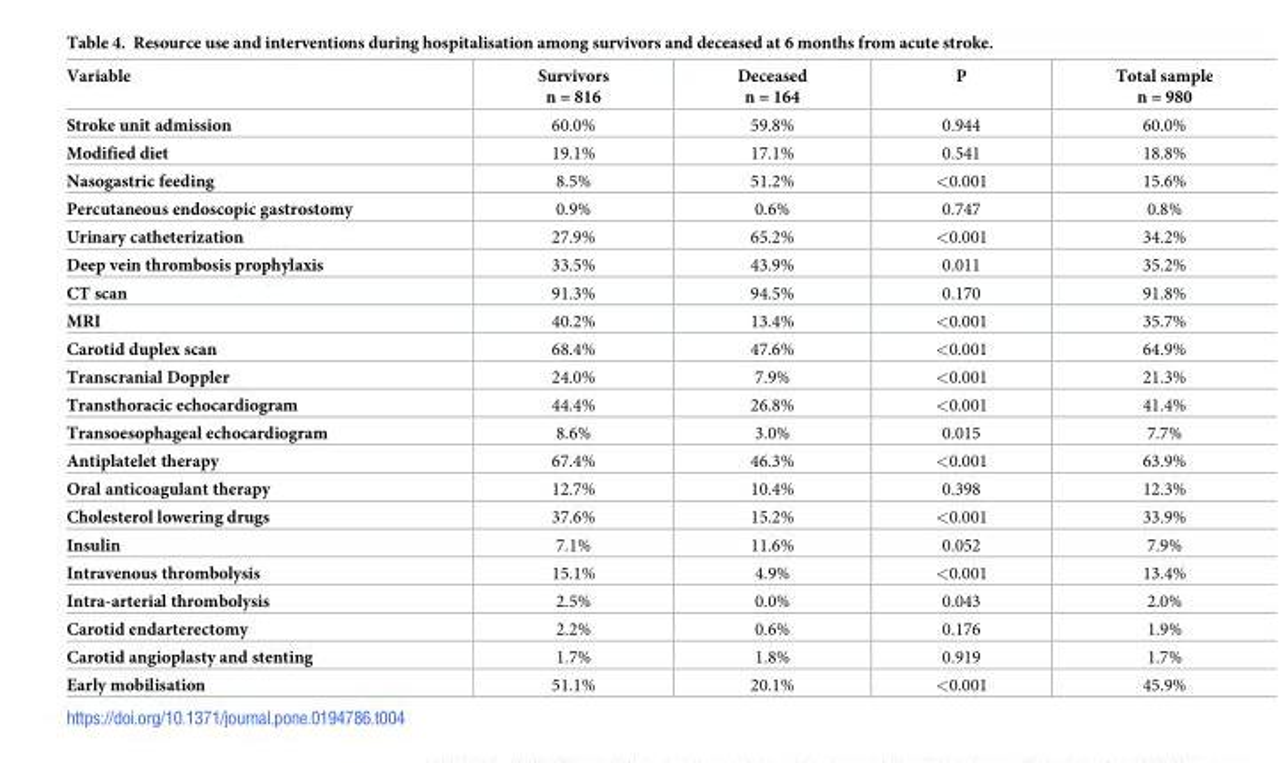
<table><thead><tr><td>Variable</td><td>Survivors n = 816</td><td>Deceased n = 164</td><td>P</td><td>Total sample n = 980</td></tr></thead><tbody><tr><td>Stroke unit admission</td><td>60.0%</td><td>59.8%</td><td>0.944</td><td>60.0%</td></tr><tr><td>Modified diet</td><td>19.1%</td><td>17.1%</td><td>0.541</td><td>18.8%</td></tr><tr><td>Nasogastric feeding</td><td>8.5%</td><td>51.2%</td><td>&lt;0.001</td><td>15.6%</td></tr><tr><td>Percutaneous endoscopic gastrostomy</td><td>0.9%</td><td>0.6%</td><td>0.747</td><td>0.8%</td></tr><tr><td>Urinary catheterization</td><td>27.9%</td><td>65.2%</td><td>&lt;0.001</td><td>34.2%</td></tr><tr><td>Deep vein thrombosis prophylaxis</td><td>33.5%</td><td>43.9%</td><td>0.011</td><td>35.2%</td></tr><tr><td>CT scan</td><td>91.3%</td><td>94.5%</td><td>0.170</td><td>91.8%</td></tr><tr><td>MRI</td><td>40.2%</td><td>13.4%</td><td>&lt;0.001</td><td>35.7%</td></tr><tr><td>Carotid duplex scan</td><td>68.4%</td><td>47.6%</td><td>&lt;0.001</td><td>64.9%</td></tr><tr><td>Transcranial Doppler</td><td>24.0%</td><td>7.9%</td><td>&lt;0.001</td><td>21.3%</td></tr><tr><td>Transthoracic echocardiogram</td><td>44.4%</td><td>26.8%</td><td>&lt;0.001</td><td>41.4%</td></tr><tr><td>Transoesophageal echocardiogram</td><td>8.6%</td><td>3.0%</td><td>0.015</td><td>7.7%</td></tr><tr><td>Antiplatelet therapy</td><td>67.4%</td><td>46.3%</td><td>&lt;0.001</td><td>63.9%</td></tr><tr><td>Oral anticoagulant therapy</td><td>12.7%</td><td>10.4%</td><td>0.398</td><td>12.3%</td></tr><tr><td>Cholesterol lowering drugs</td><td>37.6%</td><td>15.2%</td><td>&lt;0.001</td><td>33.9%</td></tr><tr><td>Insulin</td><td>7.1%</td><td>11.6%</td><td>0.052</td><td>7.9%</td></tr><tr><td>Intravenous thrombolysis</td><td>15.1%</td><td>4.9%</td><td>&lt;0.001</td><td>13.4%</td></tr><tr><td>Intra-arterial thrombolysis</td><td>2.5%</td><td>0.0%</td><td>0.043</td><td>2.0%</td></tr><tr><td>Carotid endarterectomy</td><td>2.2%</td><td>0.6%</td><td>0.176</td><td>1.9%</td></tr><tr><td>Carotid angioplasty and stenting</td><td>1.7%</td><td>1.8%</td><td>0.919</td><td>1.7%</td></tr><tr><td>Early mobilisation</td><td>51.1%</td><td>20.1%</td><td>&lt;0.001</td><td>45.9%</td></tr></tbody></table>